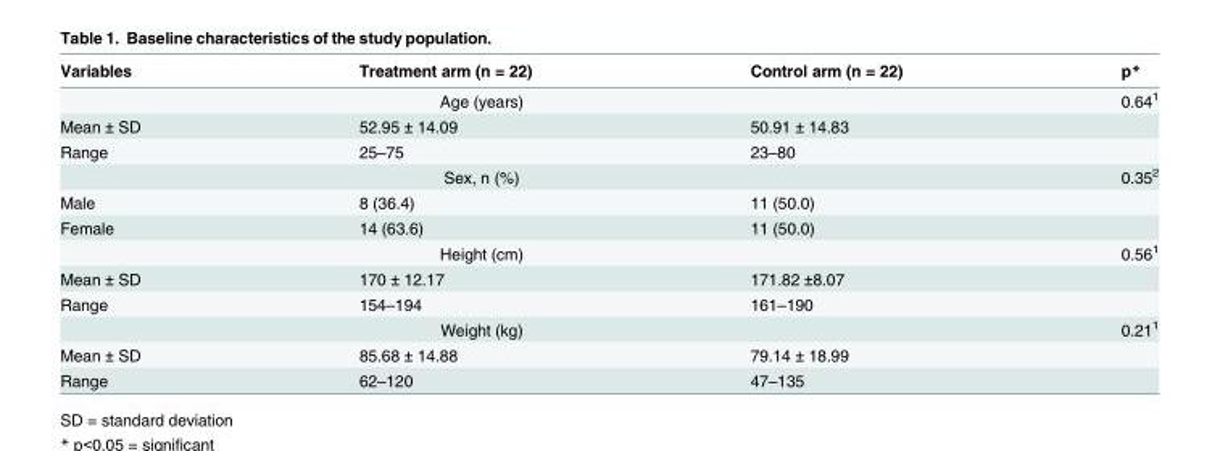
<table><thead><tr><td>Variables</td><td>Treatment arm (n = 22)</td><td>Control arm (n = 22)</td><td>p*</td></tr></thead><tbody><tr><td colspan="3">Age (years)</td><td>0.64<sup>1</sup></td></tr><tr><td>Mean ± SD</td><td>52.95 ± 14.09</td><td>50.91 ± 14.83</td><td></td></tr><tr><td>Range</td><td>25–75</td><td>23–80</td><td></td></tr><tr><td colspan="3">Sex, n (%)</td><td>0.35<sup>2</sup></td></tr><tr><td>Male</td><td>8 (36.4)</td><td>11 (50.0)</td><td></td></tr><tr><td>Female</td><td>14 (63.6)</td><td>11 (50.0)</td><td></td></tr><tr><td colspan="3">Height (cm)</td><td>0.56<sup>1</sup></td></tr><tr><td>Mean ± SD</td><td>170 ± 12.17</td><td>171.82 ±8.07</td><td></td></tr><tr><td>Range</td><td>154–194</td><td>161–190</td><td></td></tr><tr><td colspan="3">Weight (kg)</td><td>0.21<sup>1</sup></td></tr><tr><td>Mean ± SD</td><td>85.68 ± 14.88</td><td>79.14 ± 18.99</td><td></td></tr><tr><td>Range</td><td>62–120</td><td>47–135</td><td></td></tr></tbody></table>